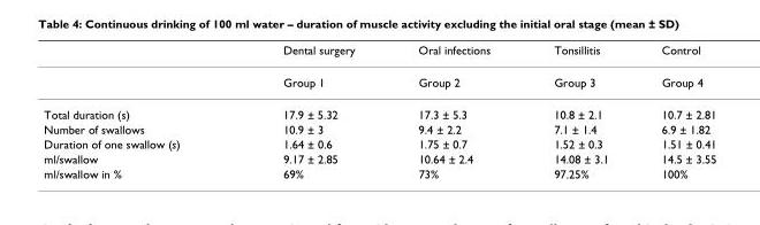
<table><thead><tr><td></td><td>Dental surgery</td><td>Oral infections</td><td>Tonsillitis</td><td>Control</td></tr></thead><tbody><tr><td></td><td>Group 1</td><td>Group 2</td><td>Group 3</td><td>Group 4</td></tr><tr><td>Total duration (s)</td><td>17.9 ± 5.32</td><td>17.3 ± 5.3</td><td>10.8 ± 2.1</td><td>10.7 ± 2.81</td></tr><tr><td>Number of swallows</td><td>10.9 ± 3</td><td>9.4 ± 2.2</td><td>7.1 ± 1.4</td><td>6.9 ± 1.82</td></tr><tr><td>Duration of one swallow (s)</td><td>1.64 ± 0.6</td><td>1.75 ± 0.7</td><td>1.52 ± 0.3</td><td>1.51 ± 0.41</td></tr><tr><td>ml/swallow</td><td>9.17 ± 2.85</td><td>10.64 ± 2.4</td><td>14.08 ± 3.1</td><td>14.5 ± 3.55</td></tr><tr><td>ml/swallow in %</td><td>69%</td><td>73%</td><td>97.25%</td><td>100%</td></tr></tbody></table>